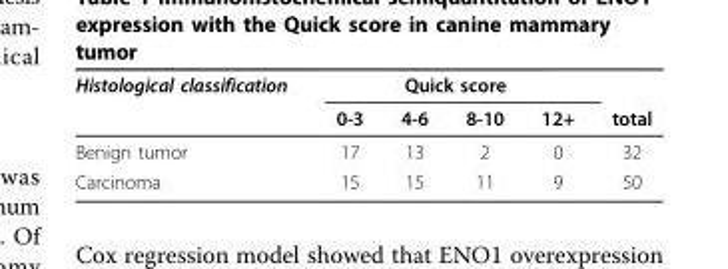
<table><thead><tr><td rowspan="2">Histological classification</td><td colspan="4">Quick score</td><td rowspan="2">total</td></tr><tr><td>0-3</td><td>4-6</td><td>8-10</td><td>12+</td></tr></thead><tbody><tr><td>Benign tumor</td><td>17</td><td>13</td><td>2</td><td>0</td><td>32</td></tr><tr><td>Carcinoma</td><td>15</td><td>15</td><td>11</td><td>9</td><td>50</td></tr></tbody></table>